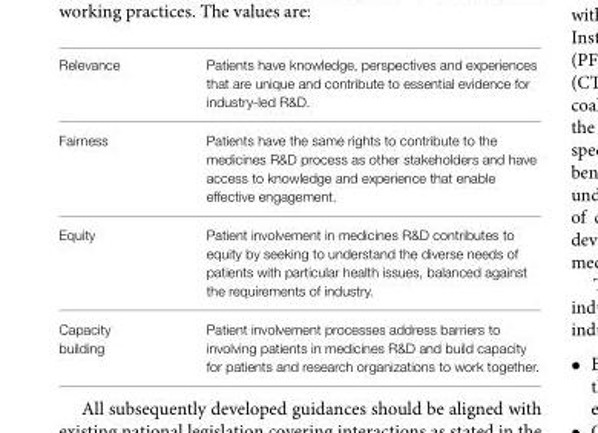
<table><tbody><tr><td>Relevance</td><td>Patients have knowledge, perspectives and experiences that are unique and contribute to essential evidence for industry-led R&amp;D.</td></tr><tr><td>Fairness</td><td>Patients have the same rights to contribute to the medicines R&amp;D process as other stakeholders and have access to knowledge and experience that enable effective engagement.</td></tr><tr><td>Equity</td><td>Patient involvement in medicines R&amp;D contributes to equity by seeking to understand the diverse needs of patients with particular health issues, balanced against the requirements of industry.</td></tr><tr><td>Capacity building</td><td>Patient involvement processes address barriers to involving patients in medicines R&amp;D and build capacity for patients and research organizations to work together.</td></tr></tbody></table>